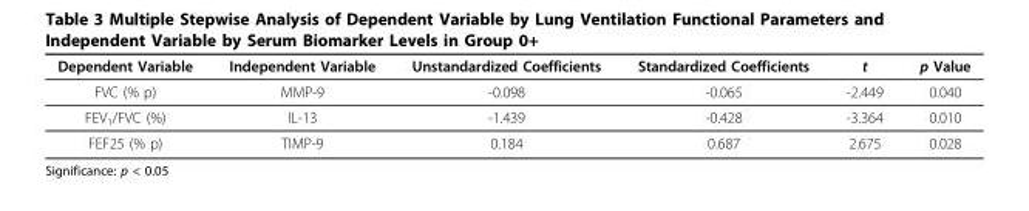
<table><thead><tr><td>Dependent Variable</td><td>Independent Variable</td><td>Unstandardized Coefficients</td><td>Standardized Coefficients</td><td>t</td><td>p Value</td></tr></thead><tbody><tr><td>FVC (% p)</td><td>MMP-9</td><td>-0.098</td><td>-0.065</td><td>-2.449</td><td>0.040</td></tr><tr><td>FEV<sub>1</sub>/FVC (%)</td><td>IL-13</td><td>-1.439</td><td>-0.428</td><td>-3.364</td><td>0.010</td></tr><tr><td>FEF25 (% p)</td><td>TIMP-9</td><td>0.184</td><td>0.687</td><td>2.675</td><td>0.028</td></tr></tbody></table>